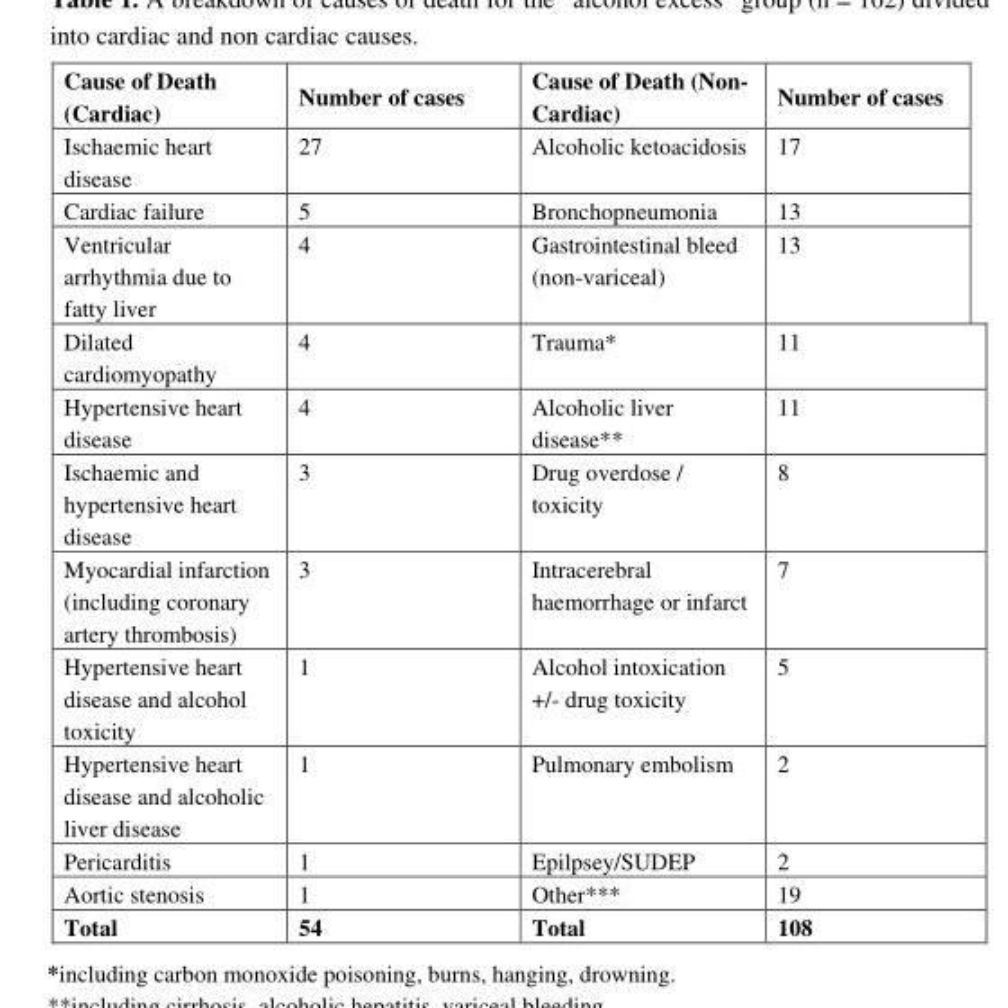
<table><thead><tr><td>Cause of Death (Cardiac)</td><td>Number of cases</td><td>Cause of Death (Non- Cardiac)</td><td>Number of cases</td></tr></thead><tbody><tr><td>Ischaemic heart disease</td><td>27</td><td>Alcoholic ketoacidosis</td><td>17</td></tr><tr><td>Cardiac failure</td><td>5</td><td>Bronchopneumonia</td><td>13</td></tr><tr><td>Ventricular arrhythmia due to fatty liver</td><td>4</td><td>Gastrointestinal bleed (non-variceal)</td><td>13</td></tr><tr><td>Dilated cardiomyopathy</td><td>4</td><td>Trauma*</td><td>11</td></tr><tr><td>Hypertensive heart disease</td><td>4</td><td>Alcoholic liver disease**</td><td>11</td></tr><tr><td>Ischaemic and hypertensive heart disease</td><td>3</td><td>Drug overdose / toxicity</td><td>8</td></tr><tr><td>Myocardial infarction (including coronary artery thrombosis)</td><td>3</td><td>Intracerebral haemorrhage or infarct</td><td>7</td></tr><tr><td>Hypertensive heart disease and alcohol toxicity</td><td>1</td><td>Alcohol intoxication +/- drug toxicity</td><td>5</td></tr><tr><td>Hypertensive heart disease and alcoholic liver disease</td><td>1</td><td>Pulmonary embolism</td><td>2</td></tr><tr><td>Pericarditis</td><td>1</td><td>Epilpsey/SUDEP</td><td>2</td></tr><tr><td>Aortic stenosis</td><td>1</td><td>Other***</td><td>19</td></tr><tr><td>Total</td><td>54</td><td>Total</td><td>108</td></tr></tbody></table>